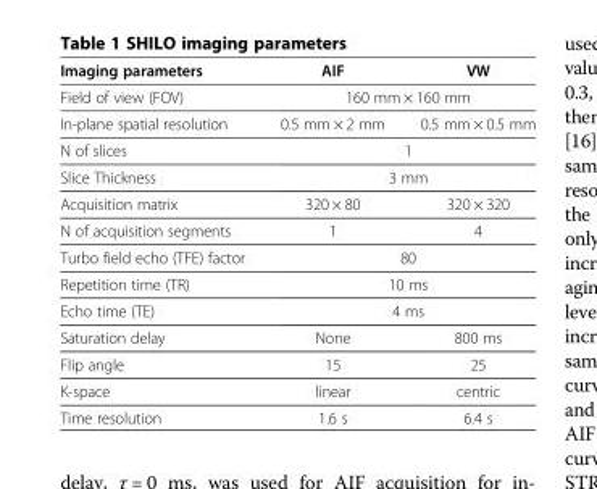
<table><thead><tr><td>Imaging parameters</td><td>AIF</td><td>VW</td></tr></thead><tbody><tr><td>Field of view (FOV)</td><td colspan="2">160 mm × 160 mm</td></tr><tr><td>In-plane spatial resolution</td><td>0.5 mm × 2 mm</td><td>0.5 mm × 0.5 mm</td></tr><tr><td>N of slices</td><td colspan="2">1</td></tr><tr><td>Slice Thickness</td><td colspan="2">3 mm</td></tr><tr><td>Acquisition matrix</td><td>320 × 80</td><td>320 × 320</td></tr><tr><td>N of acquisition segments</td><td>1</td><td>4</td></tr><tr><td>Turbo field echo (TFE) factor</td><td colspan="2">80</td></tr><tr><td>Repetition time (TR)</td><td colspan="2">10 ms</td></tr><tr><td>Echo time (TE)</td><td colspan="2">4 ms</td></tr><tr><td>Saturation delay</td><td>None</td><td>800 ms</td></tr><tr><td>Flip angle</td><td>15</td><td>25</td></tr><tr><td>K-space</td><td>linear</td><td>centric</td></tr><tr><td>Time resolution</td><td>1.6 s</td><td>6.4 s</td></tr></tbody></table>